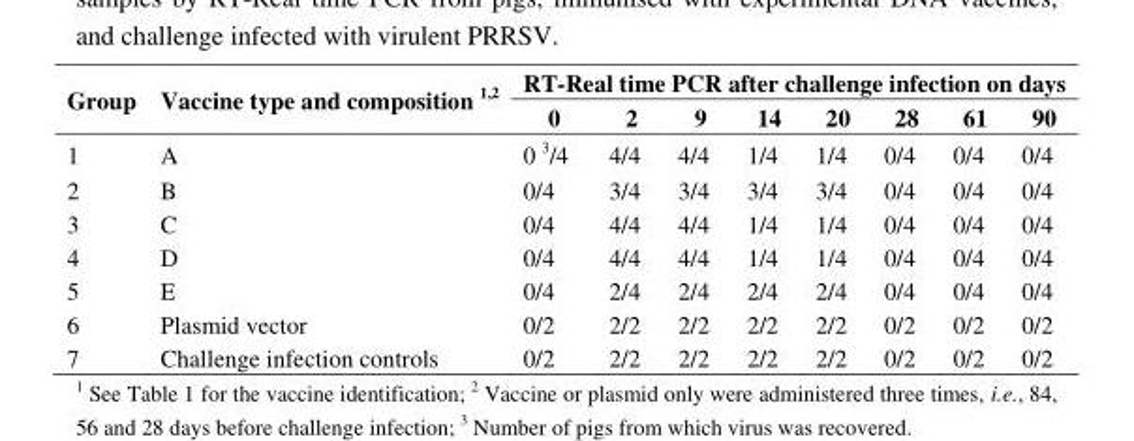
<table><thead><tr><td rowspan="2">Group</td><td rowspan="2">Vaccine type and composition <sup>1,2</sup></td><td colspan="8">RT-Real time PCR after challenge infection on days</td></tr><tr><td>0</td><td>2</td><td>9</td><td>14</td><td>20</td><td>28</td><td>61</td><td>90</td></tr></thead><tbody><tr><td>1</td><td>A</td><td>0 <sup>3</sup>/4</td><td>4/4</td><td>4/4</td><td>1/4</td><td>1/4</td><td>0/4</td><td>0/4</td><td>0/4</td></tr><tr><td>2</td><td>B</td><td>0/4</td><td>3/4</td><td>3/4</td><td>3/4</td><td>3/4</td><td>0/4</td><td>0/4</td><td>0/4</td></tr><tr><td>3</td><td>C</td><td>0/4</td><td>4/4</td><td>4/4</td><td>1/4</td><td>1/4</td><td>0/4</td><td>0/4</td><td>0/4</td></tr><tr><td>4</td><td>D</td><td>0/4</td><td>4/4</td><td>4/4</td><td>1/4</td><td>1/4</td><td>0/4</td><td>0/4</td><td>0/4</td></tr><tr><td>5</td><td>E</td><td>0/4</td><td>2/4</td><td>2/4</td><td>2/4</td><td>2/4</td><td>0/4</td><td>0/4</td><td>0/4</td></tr><tr><td>6</td><td>Plasmid vector</td><td>0/2</td><td>2/2</td><td>2/2</td><td>2/2</td><td>2/2</td><td>0/2</td><td>0/2</td><td>0/2</td></tr><tr><td>7</td><td>Challenge infection controls</td><td>0/2</td><td>2/2</td><td>2/2</td><td>2/2</td><td>2/2</td><td>0/2</td><td>0/2</td><td>0/2</td></tr></tbody></table>